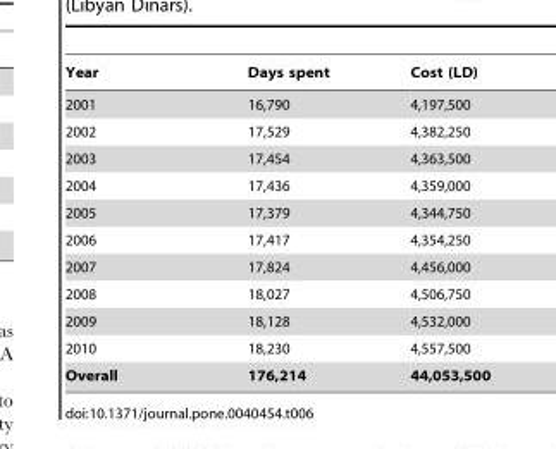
<table><thead><tr><td>Year</td><td>Days spent</td><td>Cost (LD)</td></tr></thead><tbody><tr><td>2001</td><td>16,790</td><td>4,197,500</td></tr><tr><td>2002</td><td>17,529</td><td>4,382,250</td></tr><tr><td>2003</td><td>17,454</td><td>4,363,500</td></tr><tr><td>2004</td><td>17,436</td><td>4,359,000</td></tr><tr><td>2005</td><td>17,379</td><td>4,344,750</td></tr><tr><td>2006</td><td>17,417</td><td>4,354,250</td></tr><tr><td>2007</td><td>17,824</td><td>4,456,000</td></tr><tr><td>2008</td><td>18,027</td><td>4,506,750</td></tr><tr><td>2009</td><td>18,128</td><td>4,532,000</td></tr><tr><td>2010</td><td>18,230</td><td>4,557,500</td></tr><tr><td>Overall</td><td>176,214</td><td>44,053,500</td></tr></tbody></table>